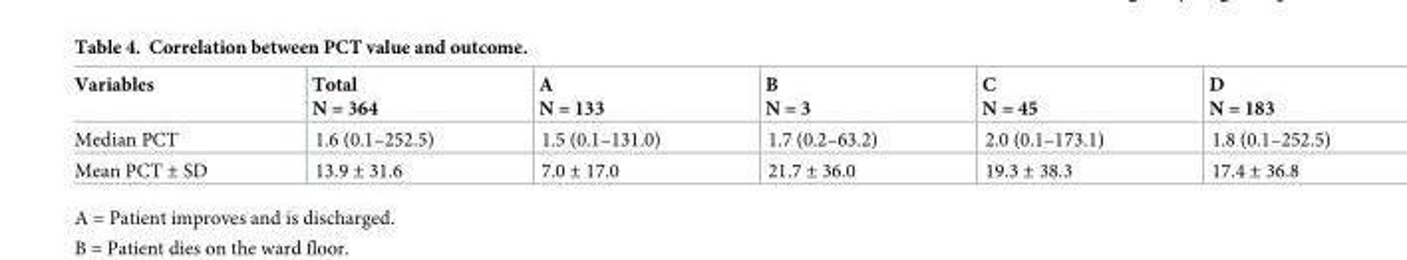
<table><thead><tr><td>Variables</td><td>Total N = 364</td><td>A N = 133</td><td>B N = 3</td><td>C N = 45</td><td>D N = 183</td></tr></thead><tbody><tr><td>Median PCT</td><td>1.6 (0.1–252.5)</td><td>1.5 (0.1–131.0)</td><td>1.7 (0.2–63.2)</td><td>2.0 (0.1–173.1)</td><td>1.8 (0.1–252.5)</td></tr><tr><td>Mean PCT ± SD</td><td>13.9 ± 31.6</td><td>7.0 ± 17.0</td><td>21.7 ± 36.0</td><td>19.3 ± 38.3</td><td>17.4 ± 36.8</td></tr></tbody></table>